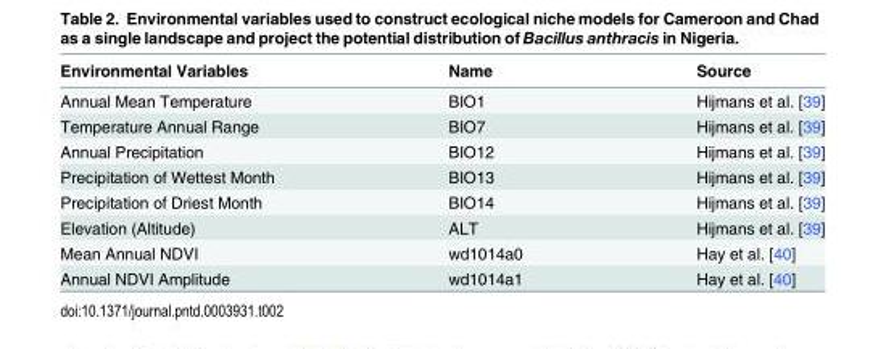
<table><thead><tr><td>Environmental Variables</td><td>Name</td><td>Source</td></tr></thead><tbody><tr><td>Annual Mean Temperature</td><td>BIO1</td><td>Hijmans et al. [39]</td></tr><tr><td>Temperature Annual Range</td><td>BIO7</td><td>Hijmans et al. [39]</td></tr><tr><td>Annual Precipitation</td><td>BIO12</td><td>Hijmans et al. [39]</td></tr><tr><td>Precipitation of Wettest Month</td><td>BIO13</td><td>Hijmans et al. [39]</td></tr><tr><td>Precipitation of Driest Month</td><td>BIO14</td><td>Hijmans et al. [39]</td></tr><tr><td>Elevation (Altitude)</td><td>ALT</td><td>Hijmans et al. [39]</td></tr><tr><td>Mean Annual NDVI</td><td>wd1014a0</td><td>Hay et al. [40]</td></tr><tr><td>Annual NDVI Amplitude</td><td>wd1014a1</td><td>Hay et al. [40]</td></tr></tbody></table>